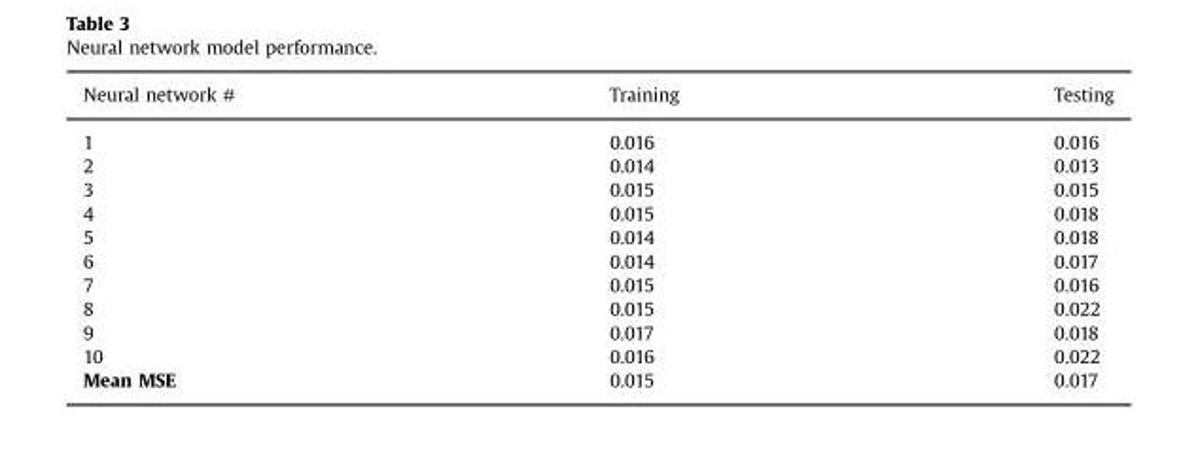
<table><thead><tr><td>Neural network #</td><td>Training</td><td>Testing</td></tr></thead><tbody><tr><td>1</td><td>0.016</td><td>0.016</td></tr><tr><td>2</td><td>0.014</td><td>0.013</td></tr><tr><td>3</td><td>0.015</td><td>0.015</td></tr><tr><td>4</td><td>0.015</td><td>0.018</td></tr><tr><td>5</td><td>0.014</td><td>0.018</td></tr><tr><td>6</td><td>0.014</td><td>0.017</td></tr><tr><td>7</td><td>0.015</td><td>0.016</td></tr><tr><td>8</td><td>0.015</td><td>0.022</td></tr><tr><td>9</td><td>0.017</td><td>0.018</td></tr><tr><td>10</td><td>0.016</td><td>0.022</td></tr><tr><td>Mean MSE</td><td>0.015</td><td>0.017</td></tr></tbody></table>